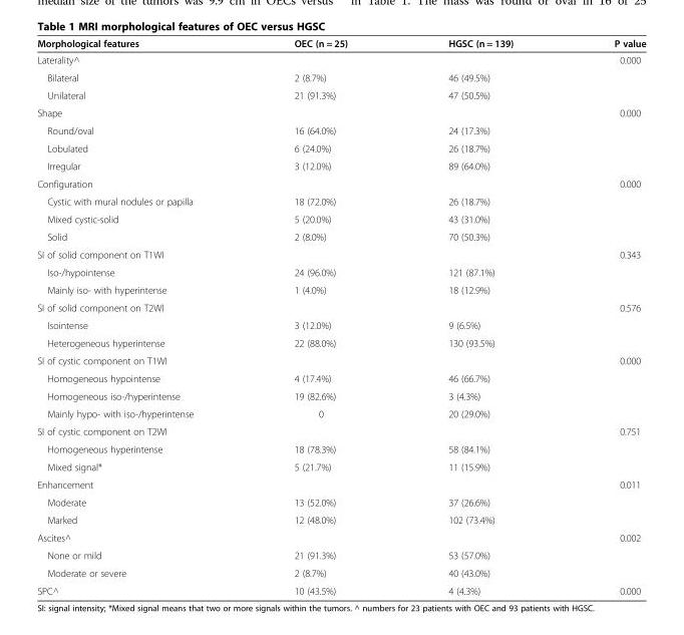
<table><thead><tr><td>Morphological features</td><td>OEC (n = 25)</td><td>HGSC (n = 139)</td><td>P value</td></tr></thead><tbody><tr><td colspan="3">Laterality^</td><td rowspan="3">0.000</td></tr><tr><td>Bilateral</td><td>2 (8.7%)</td><td>46 (49.5%)</td></tr><tr><td>Unilateral</td><td>21 (91.3%)</td><td>47 (50.5%)</td></tr><tr><td colspan="3">Shape</td><td rowspan="4">0.000</td></tr><tr><td>Round/oval</td><td>16 (64.0%)</td><td>24 (17.3%)</td></tr><tr><td>Lobulated</td><td>6 (24.0%)</td><td>26 (18.7%)</td></tr><tr><td>Irregular</td><td>3 (12.0%)</td><td>89 (64.0%)</td></tr><tr><td colspan="3">Configuration</td><td rowspan="4">0.000</td></tr><tr><td>Cystic with mural nodules or papilla</td><td>18 (72.0%)</td><td>26 (18.7%)</td></tr><tr><td>Mixed cystic-solid</td><td>5 (20.0%)</td><td>43 (31.0%)</td></tr><tr><td>Solid</td><td>2 (8.0%)</td><td>70 (50.3%)</td></tr><tr><td>SI of solid component on T1WI</td><td></td><td></td><td>0.343</td></tr><tr><td>Iso-/hypointense</td><td>24 (96.0%)</td><td>121 (87.1%)</td><td></td></tr><tr><td>Mainly iso- with hyperintense</td><td>1 (4.0%)</td><td>18 (12.9%)</td><td></td></tr><tr><td>SI of solid component on T2WI</td><td></td><td></td><td>0.576</td></tr><tr><td>Isointense</td><td>3 (12.0%)</td><td>9 (6.5%)</td><td></td></tr><tr><td>Heterogeneous hyperintense</td><td>22 (88.0%)</td><td>130 (93.5%)</td><td></td></tr><tr><td>SI of cystic component on T1WI</td><td></td><td></td><td>0.000</td></tr><tr><td>Homogeneous hypointense</td><td>4 (17.4%)</td><td>46 (66.7%)</td><td></td></tr><tr><td>Homogeneous iso-/hyperintense</td><td>19 (82.6%)</td><td>3 (4.3%)</td><td></td></tr><tr><td>Mainly hypo- with iso-/hyperintense</td><td>0</td><td>20 (29.0%)</td><td></td></tr><tr><td>SI of cystic component on T2WI</td><td></td><td></td><td>0.751</td></tr><tr><td>Homogeneous hyperintense</td><td>18 (78.3%)</td><td>58 (84.1%)</td><td></td></tr><tr><td>Mixed signal*</td><td>5 (21.7%)</td><td>11 (15.9%)</td><td></td></tr><tr><td colspan="3">Enhancement</td><td rowspan="3">0.011</td></tr><tr><td>Moderate</td><td>13 (52.0%)</td><td>37 (26.6%)</td></tr><tr><td>Marked</td><td>12 (48.0%)</td><td>102 (73.4%)</td></tr><tr><td>Ascites^</td><td></td><td></td><td>0.002</td></tr><tr><td>None or mild</td><td>21 (91.3%)</td><td>53 (57.0%)</td><td></td></tr><tr><td>Moderate or severe</td><td>2 (8.7%)</td><td>40 (43.0%)</td><td></td></tr><tr><td>SPC^</td><td>10 (43.5%)</td><td>4 (4.3%)</td><td>0.000</td></tr></tbody></table>